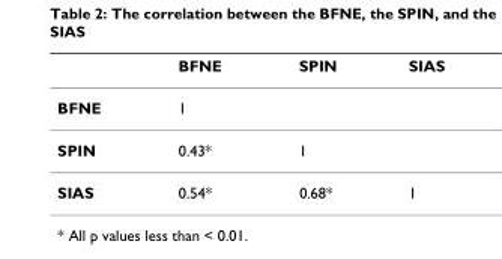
<table><thead><tr><td></td><td>BFNE</td><td>SPIN</td><td>SIAS</td></tr></thead><tbody><tr><td>BFNE</td><td>1</td><td></td><td></td></tr><tr><td>SPIN</td><td>0.43*</td><td>1</td><td></td></tr><tr><td>SIAS</td><td>0.54*</td><td>0.68*</td><td>1</td></tr></tbody></table>